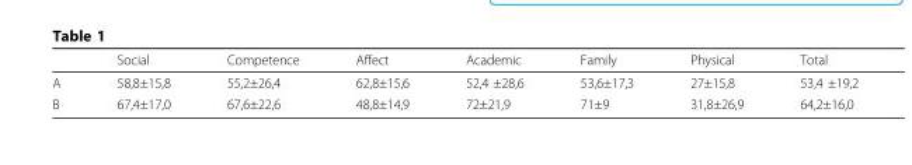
<table><thead><tr><td></td><td>Social</td><td>Competence</td><td>Affect</td><td>Academic</td><td>Family</td><td>Physical</td><td>Total</td></tr></thead><tbody><tr><td>A</td><td>58,8±15,8</td><td>55,2±26,4</td><td>62,8±15,6</td><td>52,4 ±28,6</td><td>53,6±17,3</td><td>27±15,8</td><td>53,4 ±19,2</td></tr><tr><td>B</td><td>67,4±17,0</td><td>67,6±22,6</td><td>48,8±14,9</td><td>72±21,9</td><td>71±9</td><td>31,8±26,9</td><td>64,2±16,0</td></tr></tbody></table>